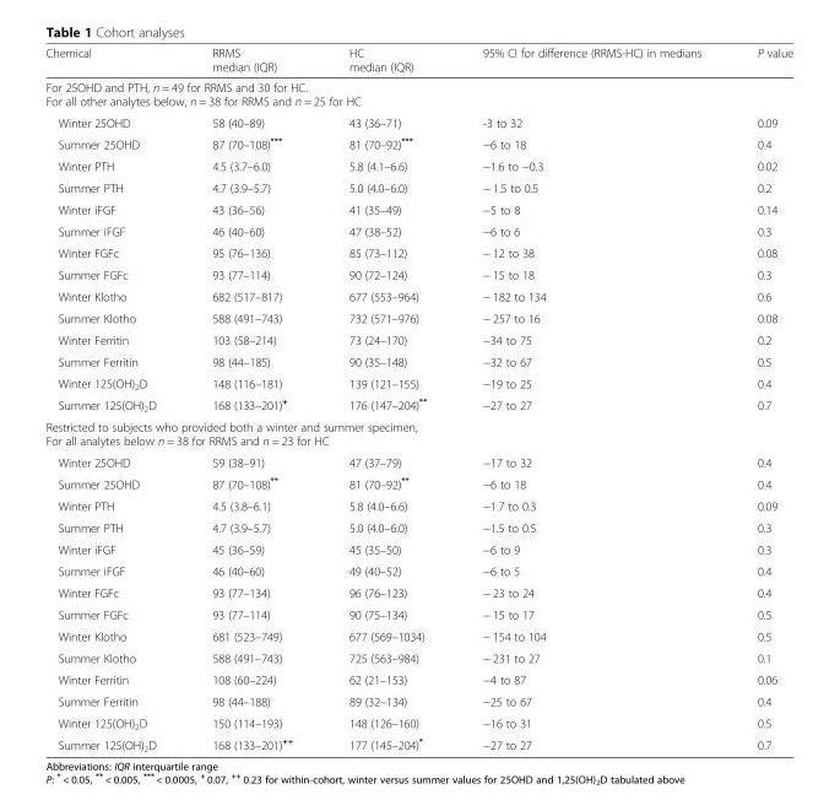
<table><thead><tr><td>Chemical</td><td>RRMS median (IQR)</td><td>HC median (IQR)</td><td>95% CI for difference (RRMS-HC) in medians</td><td>P value</td></tr></thead><tbody><tr><td colspan="5">For 25OHD and PTH, n = 49 for RRMS and 30 for HC. For all other analytes below, n = 38 for RRMS and n = 25 for HC</td></tr><tr><td>Winter 25OHD</td><td>58 (40–89)</td><td>43 (36–71)</td><td>-3 to 32</td><td>0.09</td></tr><tr><td>Summer 25OHD</td><td>87 (70–108)***</td><td>81 (70–92)***</td><td>−6 to 18</td><td>0.4</td></tr><tr><td>Winter PTH</td><td>4.5 (3.7–6.0)</td><td>5.8 (4.1–6.6)</td><td>−1.6 to −0.3</td><td>0.02</td></tr><tr><td>Summer PTH</td><td>4.7 (3.9–5.7)</td><td>5.0 (4.0–6.0)</td><td>− 1.5 to 0.5</td><td>0.2</td></tr><tr><td>Winter iFGF</td><td>43 (36–56)</td><td>41 (35–49)</td><td>−5 to 8</td><td>0.14</td></tr><tr><td>Summer iFGF</td><td>46 (40–60)</td><td>47 (38–52)</td><td>−6 to 6</td><td>0.3</td></tr><tr><td>Winter FGFc</td><td>95 (76–136)</td><td>85 (73–112)</td><td>− 12 to 38</td><td>0.08</td></tr><tr><td>Summer FGFc</td><td>93 (77–114)</td><td>90 (72–124)</td><td>− 15 to 18</td><td>0.3</td></tr><tr><td>Winter Klotho</td><td>682 (517–817)</td><td>677 (553–964)</td><td>− 182 to 134</td><td>0.6</td></tr><tr><td>Summer Klotho</td><td>588 (491–743)</td><td>732 (571–976)</td><td>− 257 to 16</td><td>0.08</td></tr><tr><td>Winter Ferritin</td><td>103 (58–214)</td><td>73 (24–170)</td><td>−34 to 75</td><td>0.2</td></tr><tr><td>Summer Ferritin</td><td>98 (44–185)</td><td>90 (35–148)</td><td>−32 to 67</td><td>0.5</td></tr><tr><td>Winter 125(OH)<sub>2</sub>D</td><td>148 (116–181)</td><td>139 (121–155)</td><td>−19 to 25</td><td>0.4</td></tr><tr><td>Summer 125(OH)<sub>2</sub>D</td><td>168 (133–201)<sup>+</sup></td><td>176 (147–204)**</td><td>−27 to 27</td><td>0.7</td></tr><tr><td colspan="5">Restricted to subjects who provided both a winter and summer specimen, For all analytes below n = 38 for RRMS and n = 23 for HC</td></tr><tr><td>Winter 25OHD</td><td>59 (38–91)</td><td>47 (37–79)</td><td>−17 to 32</td><td>0.4</td></tr><tr><td>Summer 25OHD</td><td>87 (70–108)**</td><td>81 (70–92)**</td><td>−6 to 18</td><td>0.4</td></tr><tr><td>Winter PTH</td><td>4.5 (3.8–6.1)</td><td>5.8 (4.0–6.6)</td><td>−1.7 to 0.3</td><td>0.09</td></tr><tr><td>Summer PTH</td><td>4.7 (3.9–5.7)</td><td>5.0 (4.0–6.0)</td><td>−1.5 to 0.5</td><td>0.3</td></tr><tr><td>Winter iFGF</td><td>45 (36–59)</td><td>45 (35–50)</td><td>−6 to 9</td><td>0.3</td></tr><tr><td>Summer iFGF</td><td>46 (40–60)</td><td>49 (40–52)</td><td>−6 to 5</td><td>0.4</td></tr><tr><td>Winter FGFc</td><td>93 (77–134)</td><td>96 (76–123)</td><td>− 23 to 24</td><td>0.4</td></tr><tr><td>Summer FGFc</td><td>93 (77–114)</td><td>90 (75–134)</td><td>− 15 to 17</td><td>0.5</td></tr><tr><td>Winter Klotho</td><td>681 (523–749)</td><td>677 (569–1034)</td><td>− 154 to 104</td><td>0.5</td></tr><tr><td>Summer Klotho</td><td>588 (491–743)</td><td>725 (563–984)</td><td>− 231 to 27</td><td>0.1</td></tr><tr><td>Winter Ferritin</td><td>108 (60–224)</td><td>62 (21–153)</td><td>−4 to 87</td><td>0.06</td></tr><tr><td>Summer Ferritin</td><td>98 (44–188)</td><td>89 (32–134)</td><td>−25 to 67</td><td>0.4</td></tr><tr><td>Winter 125(OH)<sub>2</sub>D</td><td>150 (114–193)</td><td>148 (126–160)</td><td>−16 to 31</td><td>0.5</td></tr><tr><td>Summer 125(OH)<sub>2</sub>D</td><td>168 (133–201)<sup>++</sup></td><td>177 (145–204)*</td><td>−27 to 27</td><td>0.7</td></tr></tbody></table>